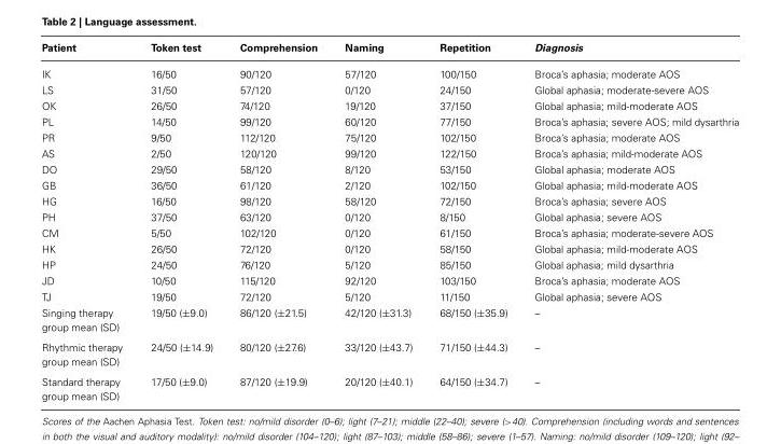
<table><thead><tr><td>Patient</td><td>Token test</td><td>Comprehension</td><td>Naming</td><td>Repetition</td><td>Diagnosis</td></tr></thead><tbody><tr><td>IK</td><td>16/50</td><td>90/120</td><td>57/120</td><td>100/150</td><td>Broca’s aphasia; moderate AOS</td></tr><tr><td>LS</td><td>31/50</td><td>57/120</td><td>0/120</td><td>24/150</td><td>Global aphasia; moderate-severe AOS</td></tr><tr><td>OK</td><td>26/50</td><td>74/120</td><td>19/120</td><td>37/150</td><td>Global aphasia; mild-moderate AOS</td></tr><tr><td>PL</td><td>14/50</td><td>99/120</td><td>60/120</td><td>77/150</td><td>Broca’s aphasia; severe AOS; mild dysarthria</td></tr><tr><td>PR</td><td>9/50</td><td>112/120</td><td>75/120</td><td>102/150</td><td>Broca’s aphasia; moderate AOS</td></tr><tr><td>AS</td><td>2/50</td><td>120/120</td><td>99/120</td><td>122/150</td><td>Broca’s aphasia; mild-moderate AOS</td></tr><tr><td>DO</td><td>29/50</td><td>58/120</td><td>8/120</td><td>53/150</td><td>Global aphasia; moderate AOS</td></tr><tr><td>GB</td><td>36/50</td><td>61/120</td><td>2/120</td><td>102/150</td><td>Global aphasia; mild-moderate AOS</td></tr><tr><td>HG</td><td>16/50</td><td>98/120</td><td>58/120</td><td>72/150</td><td>Broca’s aphasia; severe AOS</td></tr><tr><td>PH</td><td>37/50</td><td>63/120</td><td>0/120</td><td>8/150</td><td>Global aphasia; severe AOS</td></tr><tr><td>CM</td><td>5/50</td><td>102/120</td><td>0/120</td><td>61/150</td><td>Broca’s aphasia; moderate-severe AOS</td></tr><tr><td>HK</td><td>26/50</td><td>72/120</td><td>0/120</td><td>58/150</td><td>Global aphasia; mild-moderate AOS</td></tr><tr><td>HP</td><td>24/50</td><td>76/120</td><td>5/120</td><td>85/150</td><td>Global aphasia; mild dysarthria</td></tr><tr><td>JD</td><td>10/50</td><td>115/120</td><td>92/120</td><td>103/150</td><td>Broca’s aphasia; moderate AOS</td></tr><tr><td>TJ</td><td>19/50</td><td>72/120</td><td>5/120</td><td>11/150</td><td>Global aphasia; severe AOS</td></tr><tr><td>Singing therapy group mean (SD)</td><td>19/50 (±9.0)</td><td>86/120 (±21.5)</td><td>42/120 (±31.3)</td><td>68/150 (±35.9)</td><td>–</td></tr><tr><td>Rhythmic therapy group mean (SD)</td><td>24/50 (±14.9)</td><td>80/120 (±27.6)</td><td>33/120 (±43.7)</td><td>71/150 (±44.3)</td><td>–</td></tr><tr><td>Standard therapy group mean (SD)</td><td>17/50 (±9.0)</td><td>87/120 (±19.9)</td><td>20/120 (±40.1)</td><td>64/150 (±34.7)</td><td>–</td></tr></tbody></table>